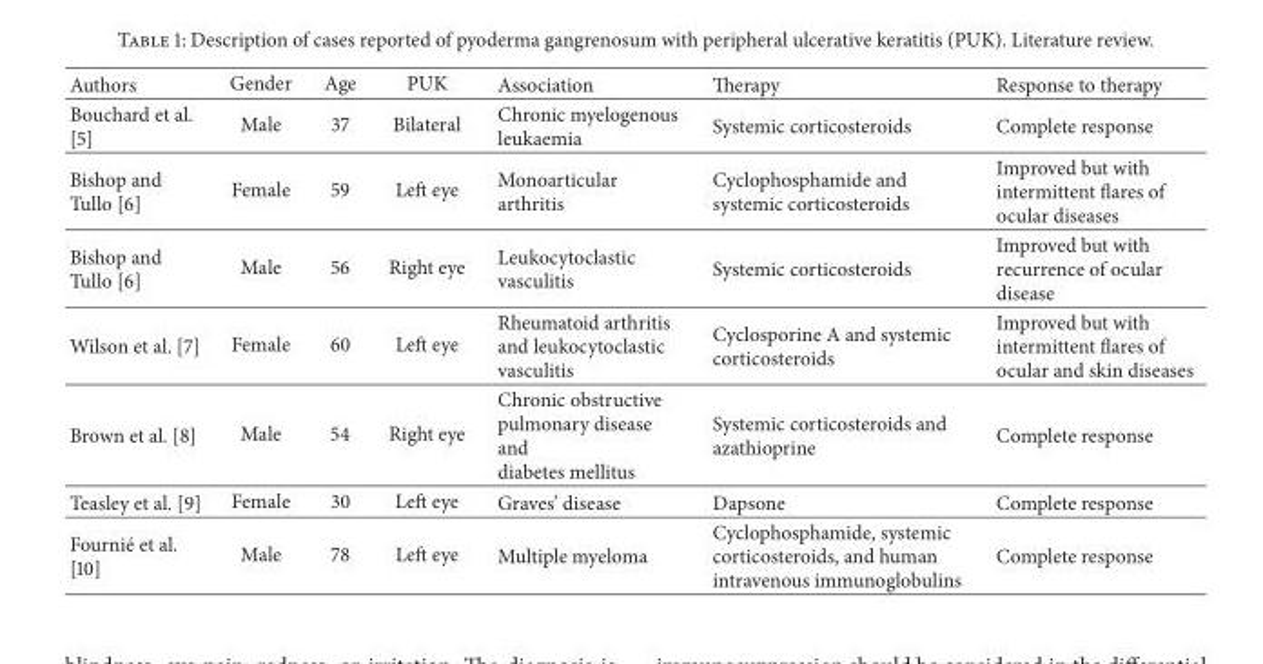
<table><thead><tr><td>Authors</td><td>Gender</td><td>Age</td><td>PUK</td><td>Association</td><td>Therapy</td><td>Response to therapy</td></tr></thead><tbody><tr><td>Bouchard et al. [5]</td><td>Male</td><td>37</td><td>Bilateral</td><td>Chronic myelogenous leukaemia</td><td>Systemic corticosteroids</td><td>Complete response</td></tr><tr><td>Bishop and Tullo [6]</td><td>Female</td><td>59</td><td>Left eye</td><td>Monoarticular arthritis</td><td>Cyclophosphamide and systemic corticosteroids</td><td>Improved but with intermittent flares of ocular diseases</td></tr><tr><td>Bishop and Tullo [6]</td><td>Male</td><td>56</td><td>Right eye</td><td>Leukocytoclastic vasculitis</td><td>Systemic corticosteroids</td><td>Improved but with recurrence of ocular disease</td></tr><tr><td>Wilson et al. [7]</td><td>Female</td><td>60</td><td>Left eye</td><td>Rheumatoid arthritis and leukocytoclastic vasculitis</td><td>Cyclosporine A and systemic corticosteroids</td><td>Improved but with intermittent flares of ocular and skin diseases</td></tr><tr><td>Brown et al. [8]</td><td>Male</td><td>54</td><td>Right eye</td><td>Chronic obstructive pulmonary disease and diabetes mellitus</td><td>Systemic corticosteroids and azathioprine</td><td>Complete response</td></tr><tr><td>Teasley et al. [9]</td><td>Female</td><td>30</td><td>Left eye</td><td>Graves’ disease</td><td>Dapsone</td><td>Complete response</td></tr><tr><td>Fourni´e et al. [10]</td><td>Male</td><td>78</td><td>Left eye</td><td>Multiple myeloma</td><td>Cyclophosphamide, systemic corticosteroids, and human intravenous immunoglobulins</td><td>Complete response</td></tr></tbody></table>